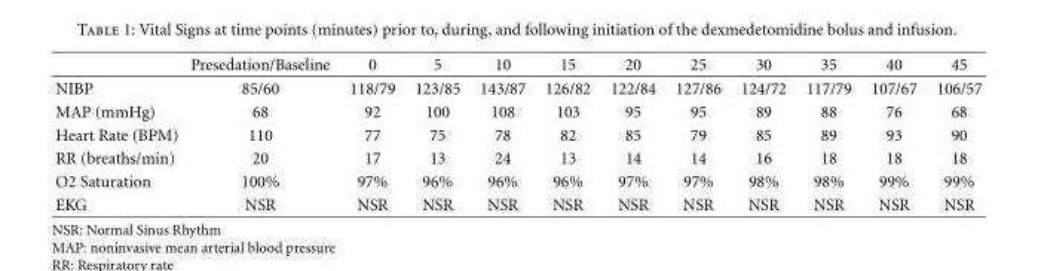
<table><thead><tr><td></td><td>Presedation/Baseline</td><td>0</td><td>5</td><td>10</td><td>15</td><td>20</td><td>25</td><td>30</td><td>35</td><td>40</td><td>45</td></tr></thead><tbody><tr><td>NIBP</td><td>85/60</td><td>118/79</td><td>123/85</td><td>143/87</td><td>126/82</td><td>122/84</td><td>127/86</td><td>124/72</td><td>117/79</td><td>107/67</td><td>106/57</td></tr><tr><td>MAP (mmHg)</td><td>68</td><td>92</td><td>100</td><td>108</td><td>103</td><td>95</td><td>95</td><td>89</td><td>88</td><td>76</td><td>68</td></tr><tr><td>Heart Rate (BPM)</td><td>110</td><td>77</td><td>75</td><td>78</td><td>82</td><td>85</td><td>79</td><td>85</td><td>89</td><td>93</td><td>90</td></tr><tr><td>RR (breaths/min)</td><td>20</td><td>17</td><td>13</td><td>24</td><td>13</td><td>14</td><td>14</td><td>16</td><td>18</td><td>18</td><td>18</td></tr><tr><td>O2 Saturation</td><td>100%</td><td>97%</td><td>96%</td><td>96%</td><td>96%</td><td>97%</td><td>97%</td><td>98%</td><td>98%</td><td>99%</td><td>99%</td></tr><tr><td>EKG</td><td>NSR</td><td>NSR</td><td>NSR</td><td>NSR</td><td>NSR</td><td>NSR</td><td>NSR</td><td>NSR</td><td>NSR</td><td>NSR</td><td>NSR</td></tr></tbody></table>